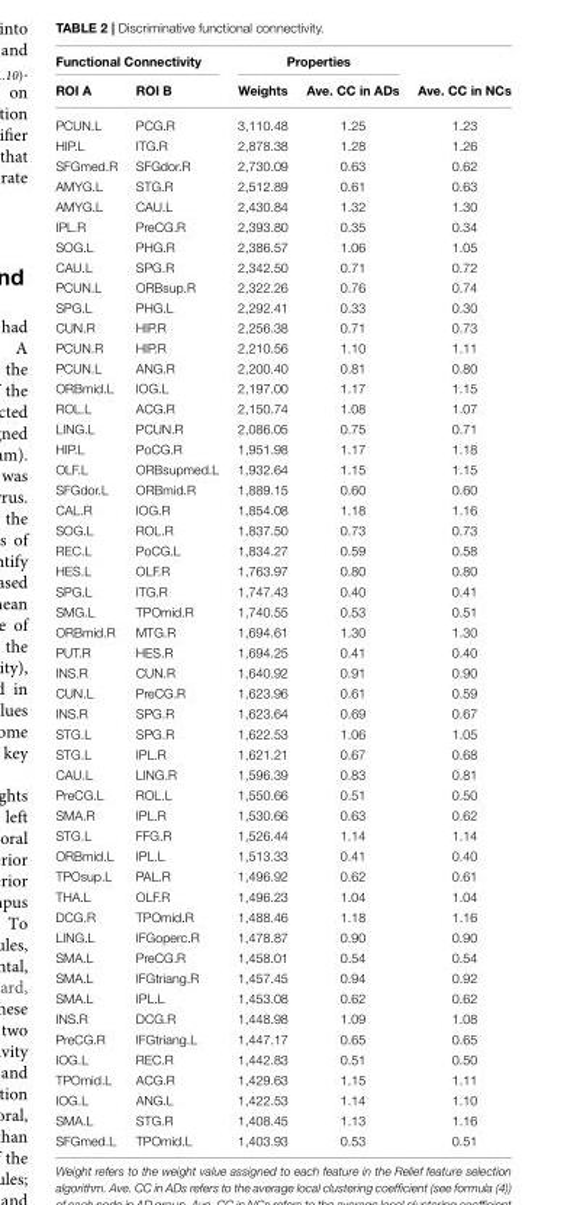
<table><thead><tr><td colspan="2">Functional Connectivity</td><td colspan="2">Properties</td><td rowspan="2">Ave. CC in NCs</td></tr><tr><td>ROI A</td><td>ROI B</td><td>Weights</td><td>Ave. CC in ADs</td></tr></thead><tbody><tr><td>PCUN.L</td><td>PCG.R</td><td>3,110.48</td><td>1.25</td><td>1.23</td></tr><tr><td>HIP.L</td><td>ITG.R</td><td>2,878.38</td><td>1.28</td><td>1.26</td></tr><tr><td>SFGmed.R</td><td>SFGdor.R</td><td>2,730.09</td><td>0.63</td><td>0.62</td></tr><tr><td>AMYG.L</td><td>STG.R</td><td>2,512.89</td><td>0.61</td><td>0.63</td></tr><tr><td>AMYG.L</td><td>CAU.L</td><td>2,430.84</td><td>1.32</td><td>1.30</td></tr><tr><td>IPL.R</td><td>PreCG.R</td><td>2,393.80</td><td>0.35</td><td>0.34</td></tr><tr><td>SOG.L</td><td>PHG.R</td><td>2,386.57</td><td>1.06</td><td>1.05</td></tr><tr><td>CAU.L</td><td>SPG.R</td><td>2,342.50</td><td>0.71</td><td>0.72</td></tr><tr><td>PCUN.L</td><td>ORBsup.R</td><td>2,322.26</td><td>0.76</td><td>0.74</td></tr><tr><td>SPG.L</td><td>PHG.L</td><td>2,292.41</td><td>0.33</td><td>0.30</td></tr><tr><td>CUN.R</td><td>HIP.R</td><td>2,256.38</td><td>0.71</td><td>0.73</td></tr><tr><td>PCUN.R</td><td>HIP.R</td><td>2,210.56</td><td>1.10</td><td>1.11</td></tr><tr><td>PCUN.L</td><td>ANG.R</td><td>2,200.40</td><td>0.81</td><td>0.80</td></tr><tr><td>ORBmid.L</td><td>IOG.L</td><td>2,197.00</td><td>1.17</td><td>1.15</td></tr><tr><td>ROL.L</td><td>ACG.R</td><td>2,150.74</td><td>1.08</td><td>1.07</td></tr><tr><td>LING.L</td><td>PCUN.R</td><td>2,086.05</td><td>0.75</td><td>0.71</td></tr><tr><td>HIP.L</td><td>PoCG.R</td><td>1,951.98</td><td>1.17</td><td>1.18</td></tr><tr><td>OLF.L</td><td>ORBsupmed.L</td><td>1,932.64</td><td>1.15</td><td>1.15</td></tr><tr><td>SFGdor.L</td><td>ORBmid.R</td><td>1,889.15</td><td>0.60</td><td>0.60</td></tr><tr><td>CAL.R</td><td>IOG.R</td><td>1,854.08</td><td>1.18</td><td>1.16</td></tr><tr><td>SOG.L</td><td>ROL.R</td><td>1,837.50</td><td>0.73</td><td>0.73</td></tr><tr><td>REC.L</td><td>PoCG.L</td><td>1,834.27</td><td>0.59</td><td>0.58</td></tr><tr><td>HES.L</td><td>OLF.R</td><td>1,763.97</td><td>0.80</td><td>0.80</td></tr><tr><td>SPG.L</td><td>ITG.R</td><td>1,747.43</td><td>0.40</td><td>0.41</td></tr><tr><td>SMG.L</td><td>TPOmid.R</td><td>1,740.55</td><td>0.53</td><td>0.51</td></tr><tr><td>ORBmid.R</td><td>MTG.R</td><td>1,694.61</td><td>1.30</td><td>1.30</td></tr><tr><td>PUT.R</td><td>HES.R</td><td>1,694.25</td><td>0.41</td><td>0.40</td></tr><tr><td>INS.R</td><td>CUN.R</td><td>1,640.92</td><td>0.91</td><td>0.90</td></tr><tr><td>CUN.L</td><td>PreCG.R</td><td>1,623.96</td><td>0.61</td><td>0.59</td></tr><tr><td>INS.R</td><td>SPG.R</td><td>1,623.64</td><td>0.69</td><td>0.67</td></tr><tr><td>STG.L</td><td>SPG.R</td><td>1,622.53</td><td>1.06</td><td>1.05</td></tr><tr><td>STG.L</td><td>IPL.R</td><td>1,621.21</td><td>0.67</td><td>0.68</td></tr><tr><td>CAU.L</td><td>LING.R</td><td>1,596.39</td><td>0.83</td><td>0.81</td></tr><tr><td>PreCG.L</td><td>ROL.L</td><td>1,550.66</td><td>0.51</td><td>0.50</td></tr><tr><td>SMA.R</td><td>IPL.R</td><td>1,530.66</td><td>0.63</td><td>0.62</td></tr><tr><td>STG.L</td><td>FFG.R</td><td>1,526.44</td><td>1.14</td><td>1.14</td></tr><tr><td>ORBmid.L</td><td>IPL.L</td><td>1,513.33</td><td>0.41</td><td>0.40</td></tr><tr><td>TPOsup.L</td><td>PAL.R</td><td>1,496.92</td><td>0.62</td><td>0.61</td></tr><tr><td>THA.L</td><td>OLF.R</td><td>1,496.23</td><td>1.04</td><td>1.04</td></tr><tr><td>DCG.R</td><td>TPOmid.R</td><td>1,488.46</td><td>1.18</td><td>1.16</td></tr><tr><td>LING.L</td><td>IFGoperc.R</td><td>1,478.87</td><td>0.90</td><td>0.90</td></tr><tr><td>SMA.L</td><td>PreCG.R</td><td>1,458.01</td><td>0.54</td><td>0.54</td></tr><tr><td>SMA.L</td><td>IFGtriang.R</td><td>1,457.45</td><td>0.94</td><td>0.92</td></tr><tr><td>SMA.L</td><td>IPL.L</td><td>1,453.08</td><td>0.62</td><td>0.62</td></tr><tr><td>INS.R</td><td>DCG.R</td><td>1,448.98</td><td>1.09</td><td>1.08</td></tr><tr><td>PreCG.R</td><td>IFGtriang.L</td><td>1,447.17</td><td>0.65</td><td>0.65</td></tr><tr><td>IOG.L</td><td>REC.R</td><td>1,442.83</td><td>0.51</td><td>0.50</td></tr><tr><td>TPOmid.L</td><td>ACG.R</td><td>1,429.63</td><td>1.15</td><td>1.11</td></tr><tr><td>IOG.L</td><td>ANG.L</td><td>1,422.53</td><td>1.14</td><td>1.10</td></tr><tr><td>SMA.L</td><td>STG.R</td><td>1,408.45</td><td>1.13</td><td>1.16</td></tr><tr><td>SFGmed.L</td><td>TPOmid.L</td><td>1,403.93</td><td>0.53</td><td>0.51</td></tr></tbody></table>